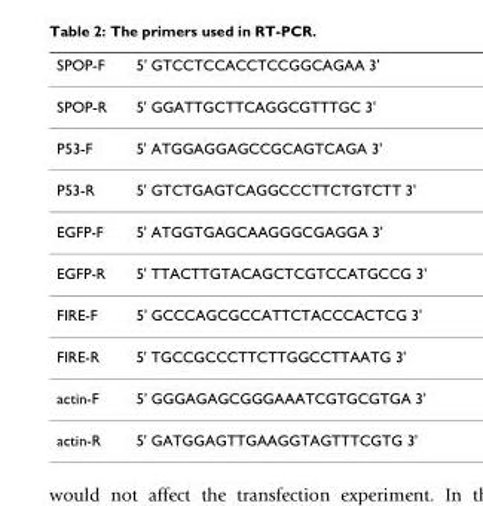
<table><thead><tr><td>SPOP-F</td><td>5&#x27; GTCCTCCACCTCCGGCAGAA 3&#x27;</td></tr></thead><tbody><tr><td>SPOP-R</td><td>5&#x27; GGATTGCTTCAGGCGTTTGC 3&#x27;</td></tr><tr><td>P53-F</td><td>5&#x27; ATGGAGGAGCCGCAGTCAGA 3&#x27;</td></tr><tr><td>P53-R</td><td>5&#x27; GTCTGAGTCAGGCCCTTCTGTCTT 3&#x27;</td></tr><tr><td>EGFP-F</td><td>5&#x27; ATGGTGAGCAAGGGCGAGGA 3&#x27;</td></tr><tr><td>EGFP-R</td><td>5&#x27; TTACTTGTACAGCTCGTCCATGCCG 3&#x27;</td></tr><tr><td>FIRE-F</td><td>5&#x27; GCCCAGCGCCATTCTACCCACTCG 3&#x27;</td></tr><tr><td>FIRE-R</td><td>5&#x27; TGCCGCCCTTCTTGGCCTTAATG 3&#x27;</td></tr><tr><td>actin-F</td><td>5&#x27; GGGAGAGCGGGAAATCGTGCGTGA 3&#x27;</td></tr><tr><td>actin-R</td><td>5&#x27; GATGGAGTTGAAGGTAGTTTCGTG 3&#x27;</td></tr></tbody></table>